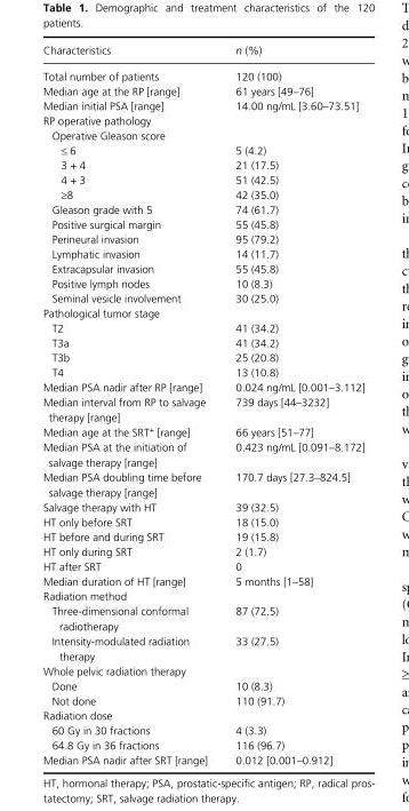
<table><thead><tr><td>Characteristics</td><td>n (%)</td></tr></thead><tbody><tr><td>Total number of patients</td><td>120 (100)</td></tr><tr><td>Median age at the RP [range]</td><td>61 years [49–76]</td></tr><tr><td>Median initial PSA [range]</td><td>14.00 ng/mL [3.60–73.51]</td></tr><tr><td colspan="2">RP operative pathology</td></tr><tr><td colspan="2">Operative Gleason score</td></tr><tr><td>≤ 6</td><td>5 (4.2)</td></tr><tr><td>3 + 4</td><td>21 (17.5)</td></tr><tr><td>4 + 3</td><td>51 (42.5)</td></tr><tr><td>≥8</td><td>42 (35.0)</td></tr><tr><td>Gleason grade with 5</td><td>74 (61.7)</td></tr><tr><td>Positive surgical margin</td><td>55 (45.8)</td></tr><tr><td>Perineural invasion</td><td>95 (79.2)</td></tr><tr><td>Lymphatic invasion</td><td>14 (11.7)</td></tr><tr><td>Extracapsular invasion</td><td>55 (45.8)</td></tr><tr><td>Positive lymph nodes</td><td>10 (8.3)</td></tr><tr><td>Seminal vesicle involvement</td><td>30 (25.0)</td></tr><tr><td colspan="2">Pathological tumor stage</td></tr><tr><td>T2</td><td>41 (34.2)</td></tr><tr><td>T3a</td><td>41 (34.2)</td></tr><tr><td>T3b</td><td>25 (20.8)</td></tr><tr><td>T4</td><td>13 (10.8)</td></tr><tr><td>Median PSA nadir after RP [range]</td><td>0.024 ng/mL [0.001–3.112]</td></tr><tr><td>Median interval from RP to salvage therapy [range]</td><td>739 days [44–3232]</td></tr><tr><td>Median age at the SRT<sup>+</sup> [range]</td><td>66 years [51–77]</td></tr><tr><td>Median PSA at the initiation of salvage therapy [range]</td><td>0.423 ng/mL [0.091–8.172]</td></tr><tr><td>Median PSA doubling time before salvage therapy [range]</td><td>170.7 days [27.3–824.5]</td></tr><tr><td>Salvage therapy with HT</td><td>39 (32.5)</td></tr><tr><td>HT only before SRT</td><td>18 (15.0)</td></tr><tr><td>HT before and during SRT</td><td>19 (15.8)</td></tr><tr><td>HT only during SRT</td><td>2 (1.7)</td></tr><tr><td>HT after SRT</td><td>0</td></tr><tr><td>Median duration of HT [range]</td><td>5 months [1–58]</td></tr><tr><td colspan="2">Radiation method</td></tr><tr><td>Three- dimensional conformal radiotherapy</td><td>87 (72.5)</td></tr><tr><td>Intensity- modulated radiation therapy</td><td>33 (27.5)</td></tr><tr><td colspan="2">Whole pelvic radiation therapy</td></tr><tr><td>Done</td><td>10 (8.3)</td></tr><tr><td>Not done</td><td>110 (91.7)</td></tr><tr><td colspan="2">Radiation dose</td></tr><tr><td>60 Gy in 30 fractions</td><td>4 (3.3)</td></tr><tr><td>64.8 Gy in 36 fractions</td><td>116 (96.7)</td></tr><tr><td>Median PSA nadir after SRT [range]</td><td>0.012 [0.001–0.912]</td></tr></tbody></table>